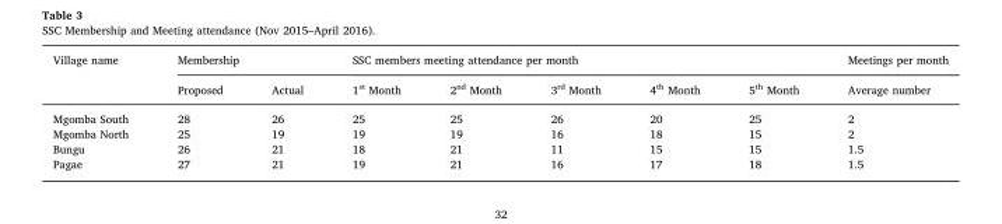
<table><thead><tr><td rowspan="2">Village name</td><td colspan="2">Membership</td><td colspan="5">SSC members meeting attendance per month</td><td rowspan="2">Meetings per month Average number</td></tr><tr><td>Proposed</td><td>Actual</td><td>1<sup>st</sup> Month</td><td>2<sup>nd</sup> Month</td><td>3<sup>rd</sup> Month</td><td>4<sup>th</sup> Month</td><td>5<sup>th</sup> Month</td></tr></thead><tbody><tr><td>Mgomba South</td><td>28</td><td>26</td><td>25</td><td>25</td><td>26</td><td>20</td><td>25</td><td>2</td></tr><tr><td>Mgomba North</td><td>25</td><td>19</td><td>19</td><td>19</td><td>16</td><td>18</td><td>15</td><td>2</td></tr><tr><td>Bungu</td><td>26</td><td>21</td><td>18</td><td>21</td><td>11</td><td>15</td><td>15</td><td>1.5</td></tr><tr><td>Pagae</td><td>27</td><td>21</td><td>19</td><td>21</td><td>16</td><td>17</td><td>18</td><td>1.5</td></tr></tbody></table>